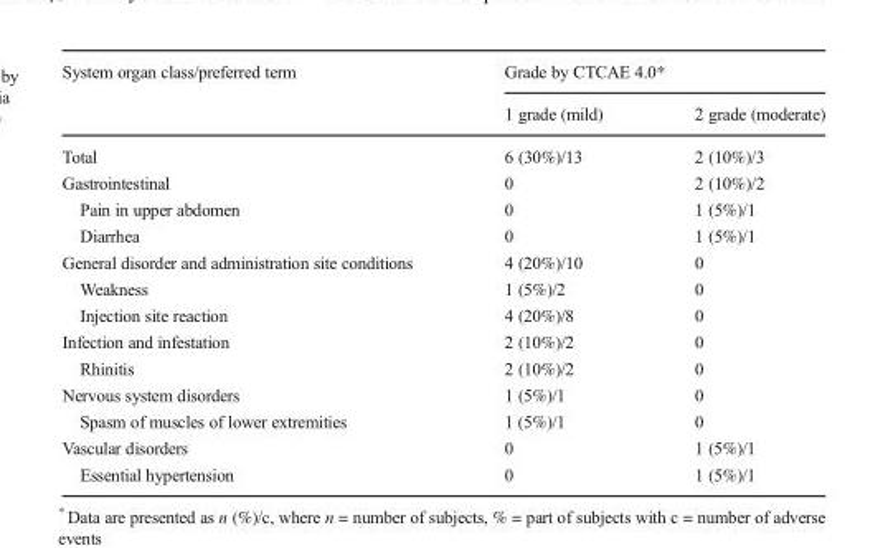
<table><thead><tr><td rowspan="2">System organ class/preferred term</td><td colspan="2">Grade by CTCAE 4.0*</td></tr><tr><td>1 grade (mild)</td><td>2 grade (moderate)</td></tr></thead><tbody><tr><td>Total</td><td>6 (30%)/13</td><td>2 (10%)/3</td></tr><tr><td>Gastrointestinal</td><td>0</td><td>2 (10%)/2</td></tr><tr><td>Pain in upper abdomen</td><td>0</td><td>1 (5%)/1</td></tr><tr><td>Diarrhea</td><td>0</td><td>1 (5%)/1</td></tr><tr><td>General disorder and administration site conditions</td><td>4 (20%)/10</td><td>0</td></tr><tr><td>Weakness</td><td>1 (5%)/2</td><td>0</td></tr><tr><td>Injection site reaction</td><td>4 (20%)/8</td><td>0</td></tr><tr><td>Infection and infestation</td><td>2 (10%)/2</td><td>0</td></tr><tr><td>Rhinitis</td><td>2 (10%)/2</td><td>0</td></tr><tr><td>Nervous system disorders</td><td>1 (5%)/1</td><td>0</td></tr><tr><td>Spasm of muscles of lower extremities</td><td>1 (5%)/1</td><td>0</td></tr><tr><td>Vascular disorders</td><td>0</td><td>1 (5%)/1</td></tr><tr><td>Essential hypertension</td><td>0</td><td>1 (5%)/1</td></tr></tbody></table>